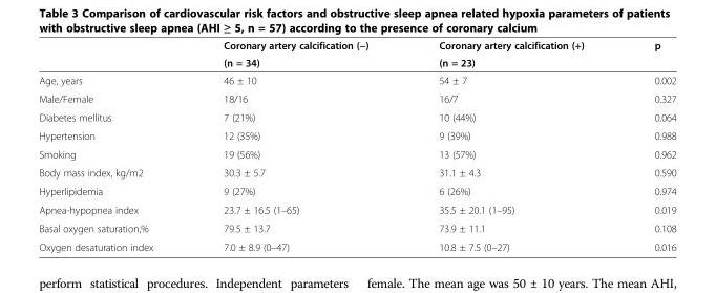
<table><thead><tr><td rowspan="2"></td><td rowspan="2">Coronary artery calcification (−) (n = 34)</td><td rowspan="2">Coronary artery calcification (+) (n = 23)</td><td rowspan="2">p</td></tr><tr></tr></thead><tbody><tr><td>Age, years</td><td>46 ± 10</td><td>54 ± 7</td><td>0.002</td></tr><tr><td>Male/Female</td><td>18/16</td><td>16/7</td><td>0.327</td></tr><tr><td>Diabetes mellitus</td><td>7 (21%)</td><td>10 (44%)</td><td>0.064</td></tr><tr><td>Hypertension</td><td>12 (35%)</td><td>9 (39%)</td><td>0.988</td></tr><tr><td>Smoking</td><td>19 (56%)</td><td>13 (57%)</td><td>0.962</td></tr><tr><td>Body mass index, kg/m2</td><td>30.3 ± 5.7</td><td>31.1 ± 4.3</td><td>0.590</td></tr><tr><td>Hyperlipidemia</td><td>9 (27%)</td><td>6 (26%)</td><td>0.974</td></tr><tr><td>Apnea-hypopnea index</td><td>23.7 ± 16.5 (1–65)</td><td>35.5 ± 20.1 (1–95)</td><td>0.019</td></tr><tr><td>Basal oxygen saturation,%</td><td>79.5 ± 13.7</td><td>73.9 ± 11.1</td><td>0.108</td></tr><tr><td>Oxygen desaturation index</td><td>7.0 ± 8.9 (0–47)</td><td>10.8 ± 7.5 (0–27)</td><td>0.016</td></tr></tbody></table>